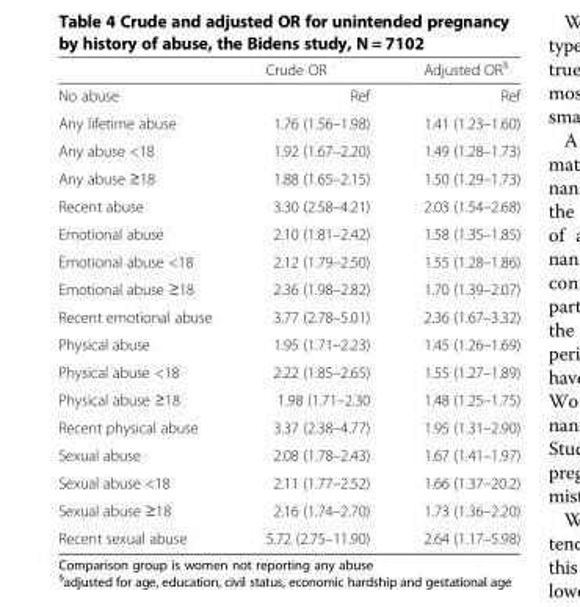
<table><thead><tr><td></td><td>Crude OR</td><td>Adjusted OR<sup>§</sup></td></tr></thead><tbody><tr><td>No abuse</td><td>Ref</td><td>Ref</td></tr><tr><td>Any lifetime abuse</td><td>1.76 (1.56–1.98)</td><td>1.41 (1.23–1.60)</td></tr><tr><td>Any abuse &lt;18</td><td>1.92 (1.67–2.20)</td><td>1.49 (1.28–1.73)</td></tr><tr><td>Any abuse ≥18</td><td>1.88 (1.65–2.15)</td><td>1.50 (1.29–1.73)</td></tr><tr><td>Recent abuse</td><td>3.30 (2.58–4.21)</td><td>2.03 (1.54–2.68)</td></tr><tr><td>Emotional abuse</td><td>2.10 (1.81–2.42)</td><td>1.58 (1.35–1.85)</td></tr><tr><td>Emotional abuse &lt;18</td><td>2.12 (1.79–2.50)</td><td>1.55 (1.28–1.86)</td></tr><tr><td>Emotional abuse ≥18</td><td>2.36 (1.98–2.82)</td><td>1.70 (1.39–2.07)</td></tr><tr><td>Recent emotional abuse</td><td>3.77 (2.78–5.01)</td><td>2.36 (1.67–3.32)</td></tr><tr><td>Physical abuse</td><td>1.95 (1.71–2.23)</td><td>1.45 (1.26–1.69)</td></tr><tr><td>Physical abuse &lt;18</td><td>2.22 (1.85–2.65)</td><td>1.55 (1.27–1.89)</td></tr><tr><td>Physical abuse ≥18</td><td>1.98 (1.71–2.30</td><td>1.48 (1.25–1.75)</td></tr><tr><td>Recent physical abuse</td><td>3.37 (2.38–4.77)</td><td>1.95 (1.31–2.90)</td></tr><tr><td>Sexual abuse</td><td>2.08 (1.78–2.43)</td><td>1.67 (1.41–1.97)</td></tr><tr><td>Sexual abuse &lt;18</td><td>2.11 (1.77–2.52)</td><td>1.66 (1.37–20.2)</td></tr><tr><td>Sexual abuse ≥18</td><td>2.16 (1.74–2.70)</td><td>1.73 (1.36–2.20)</td></tr><tr><td>Recent sexual abuse</td><td>5.72 (2.75–11.90)</td><td>2.64 (1.17–5.98)</td></tr></tbody></table>